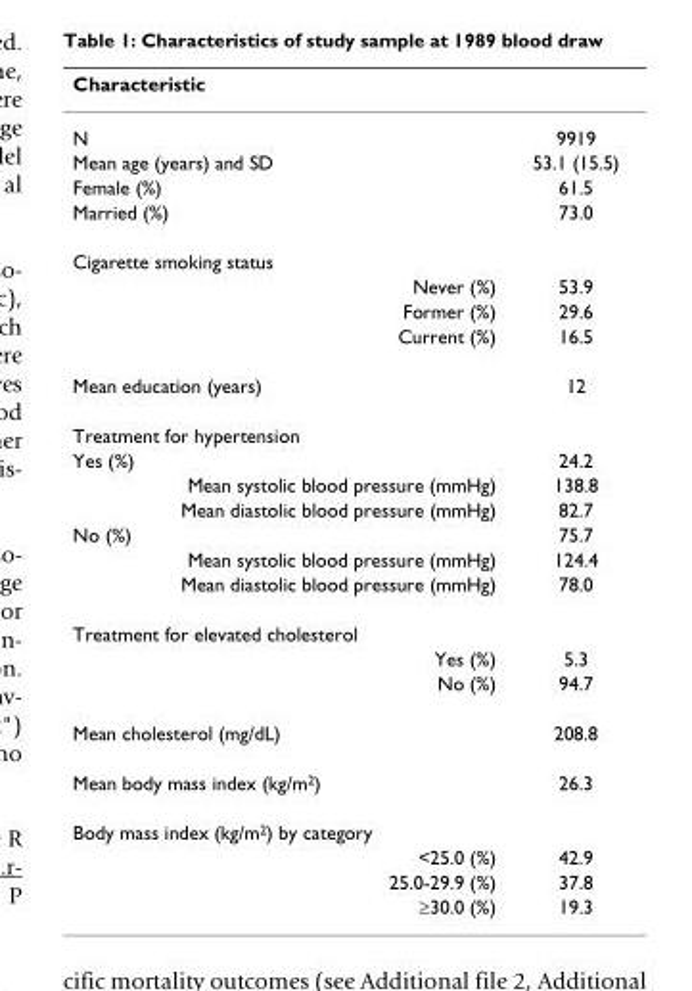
<table><thead><tr><td>Characteristic</td><td></td></tr></thead><tbody><tr><td>N</td><td>9919</td></tr><tr><td>Mean age (years) and SD</td><td>53.1 (15.5)</td></tr><tr><td>Female (%)</td><td>61.5</td></tr><tr><td>Married (%)</td><td>73.0</td></tr><tr><td colspan="2">Cigarette smoking status</td></tr><tr><td>Never (%)</td><td>53.9</td></tr><tr><td>Former (%)</td><td>29.6</td></tr><tr><td>Current (%)</td><td>16.5</td></tr><tr><td>Mean education (years)</td><td>12</td></tr><tr><td colspan="2">Treatment for hypertension</td></tr><tr><td>Yes (%)</td><td>24.2</td></tr><tr><td>Mean systolic blood pressure (mmHg)</td><td>138.8</td></tr><tr><td>Mean diastolic blood pressure (mmHg)</td><td>82.7</td></tr><tr><td>No (%)</td><td>75.7</td></tr><tr><td>Mean systolic blood pressure (mmHg)</td><td>124.4</td></tr><tr><td>Mean diastolic blood pressure (mmHg)</td><td>78.0</td></tr><tr><td colspan="2">Treatment for elevated cholesterol</td></tr><tr><td>Yes (%)</td><td>5.3</td></tr><tr><td>No (%)</td><td>94.7</td></tr><tr><td>Mean cholesterol (mg/dL)</td><td>208.8</td></tr><tr><td>Mean body mass index (kg/m<sup>2</sup>)</td><td>26.3</td></tr><tr><td colspan="2">Body mass index (kg/m<sup>2</sup>) by category</td></tr><tr><td>&lt;25.0 (%)</td><td>42.9</td></tr><tr><td>25.0-29.9 (%)</td><td>37.8</td></tr><tr><td>≥30.0 (%)</td><td>19.3</td></tr></tbody></table>